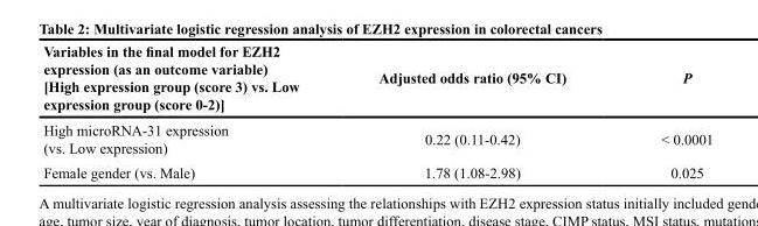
<table><thead><tr><td>Variables in the final model for EZH2 expression (as an outcome variable) [High expression group (score 3) vs. Low expression group (score 0-2)]</td><td>Adjusted odds ratio (95% CI)</td><td>P</td></tr></thead><tbody><tr><td>High microRNA-31 expression (vs. Low expression)</td><td>0.22 (0.11-0.42)</td><td>&lt; 0.0001</td></tr><tr><td>Female gender (vs. Male)</td><td>1.78 (1.08-2.98)</td><td>0.025</td></tr></tbody></table>